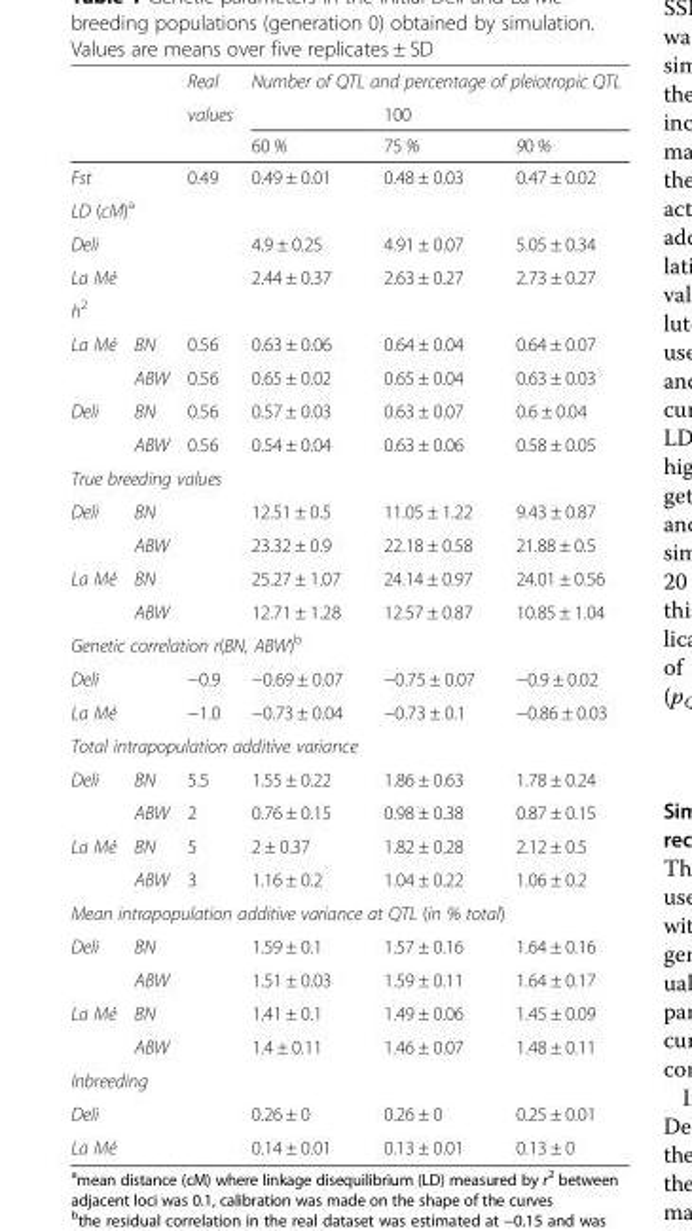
<table><thead><tr><td rowspan="2"></td><td rowspan="2"></td><td rowspan="2">Real values</td><td colspan="3">Number of QTL and percentage of pleiotropic QTL</td></tr><tr><td></td><td>100</td><td></td></tr></thead><tbody><tr><td></td><td></td><td></td><td>60 %</td><td>75 %</td><td>90 %</td></tr><tr><td>Fst</td><td></td><td>0.49</td><td>0.49 ± 0.01</td><td>0.48 ± 0.03</td><td>0.47 ± 0.02</td></tr><tr><td colspan="6">LD (cM)<sup>a</sup></td></tr><tr><td>Deli</td><td></td><td></td><td>4.9 ± 0.25</td><td>4.91 ± 0.07</td><td>5.05 ± 0.34</td></tr><tr><td>La Mé</td><td></td><td></td><td>2.44 ± 0.37</td><td>2.63 ± 0.27</td><td>2.73 ± 0.27</td></tr><tr><td colspan="6">h<sup>2</sup></td></tr><tr><td rowspan="2">La Mé</td><td>BN</td><td>0.56</td><td>0.63 ± 0.06</td><td>0.64 ± 0.04</td><td>0.64 ± 0.07</td></tr><tr><td>ABW</td><td>0.56</td><td>0.65 ± 0.02</td><td>0.65 ± 0.04</td><td>0.63 ± 0.03</td></tr><tr><td rowspan="2">Deli</td><td>BN</td><td>0.56</td><td>0.57 ± 0.03</td><td>0.63 ± 0.07</td><td>0.6 ± 0.04</td></tr><tr><td>ABW</td><td>0.56</td><td>0.54 ± 0.04</td><td>0.63 ± 0.06</td><td>0.58 ± 0.05</td></tr><tr><td colspan="6">True breeding values</td></tr><tr><td rowspan="2">Deli</td><td>BN</td><td></td><td>12.51 ± 0.5</td><td>11.05 ± 1.22</td><td>9.43 ± 0.87</td></tr><tr><td>ABW</td><td></td><td>23.32 ± 0.9</td><td>22.18 ± 0.58</td><td>21.88 ± 0.5</td></tr><tr><td rowspan="2">La Mé</td><td>BN</td><td></td><td>25.27 ± 1.07</td><td>24.14 ± 0.97</td><td>24.01 ± 0.56</td></tr><tr><td>ABW</td><td></td><td>12.71 ± 1.28</td><td>12.57 ± 0.87</td><td>10.85 ± 1.04</td></tr><tr><td colspan="6">Genetic correlation r(BN, ABW)<sup>b</sup></td></tr><tr><td>Deli</td><td></td><td>−0.9</td><td>−0.69 ± 0.07</td><td>−0.75 ± 0.07</td><td>−0.9 ± 0.02</td></tr><tr><td>La Mé</td><td></td><td>−1.0</td><td>−0.73 ± 0.04</td><td>−0.73 ± 0.1</td><td>−0.86 ± 0.03</td></tr><tr><td colspan="6">Total intrapopulation additive variance</td></tr><tr><td rowspan="2">Deli</td><td>BN</td><td>5.5</td><td>1.55 ± 0.22</td><td>1.86 ± 0.63</td><td>1.78 ± 0.24</td></tr><tr><td>ABW</td><td>2</td><td>0.76 ± 0.15</td><td>0.98 ± 0.38</td><td>0.87 ± 0.15</td></tr><tr><td rowspan="2">La Mé</td><td>BN</td><td>5</td><td>2 ± 0.37</td><td>1.82 ± 0.28</td><td>2.12 ± 0.5</td></tr><tr><td>ABW</td><td>3</td><td>1.16 ± 0.2</td><td>1.04 ± 0.22</td><td>1.06 ± 0.2</td></tr><tr><td colspan="6">Mean intrapopulation additive variance at QTL (in % total)</td></tr><tr><td rowspan="2">Deli</td><td>BN</td><td></td><td>1.59 ± 0.1</td><td>1.57 ± 0.16</td><td>1.64 ± 0.16</td></tr><tr><td>ABW</td><td></td><td>1.51 ± 0.03</td><td>1.59 ± 0.11</td><td>1.64 ± 0.17</td></tr><tr><td rowspan="2">La Mé</td><td>BN</td><td></td><td>1.41 ± 0.1</td><td>1.49 ± 0.06</td><td>1.45 ± 0.09</td></tr><tr><td>ABW</td><td></td><td>1.4 ± 0.11</td><td>1.46 ± 0.07</td><td>1.48 ± 0.11</td></tr><tr><td colspan="6">Inbreeding</td></tr><tr><td>Deli</td><td></td><td></td><td>0.26 ± 0</td><td>0.26 ± 0</td><td>0.25 ± 0.01</td></tr><tr><td>La Mé</td><td></td><td></td><td>0.14 ± 0.01</td><td>0.13 ± 0.01</td><td>0.13 ± 0</td></tr></tbody></table>